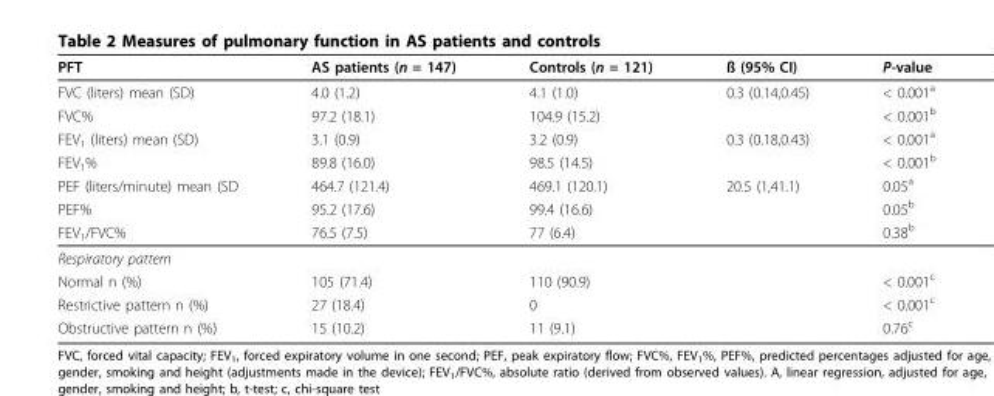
<table><thead><tr><td>PFT</td><td>AS patients (n = 147)</td><td>Controls (n = 121)</td><td>ß (95% CI)</td><td>P-value</td></tr></thead><tbody><tr><td>FVC (liters) mean (SD)</td><td>4.0 (1.2)</td><td>4.1 (1.0)</td><td>0.3 (0.14,0.45)</td><td>&lt; 0.001<sup>a</sup></td></tr><tr><td>FVC%</td><td>97.2 (18.1)</td><td>104.9 (15.2)</td><td></td><td>&lt; 0.001<sup>b</sup></td></tr><tr><td>FEV<sub>1</sub> (liters) mean (SD)</td><td>3.1 (0.9)</td><td>3.2 (0.9)</td><td>0.3 (0.18,0.43)</td><td>&lt; 0.001<sup>a</sup></td></tr><tr><td>FEV<sub>1</sub>%</td><td>89.8 (16.0)</td><td>98.5 (14.5)</td><td></td><td>&lt; 0.001<sup>b</sup></td></tr><tr><td>PEF (liters/minute) mean (SD</td><td>464.7 (121.4)</td><td>469.1 (120.1)</td><td>20.5 (1,41.1)</td><td>0.05<sup>a</sup></td></tr><tr><td>PEF%</td><td>95.2 (17.6)</td><td>99.4 (16.6)</td><td></td><td>0.05<sup>b</sup></td></tr><tr><td>FEV<sub>1</sub>/FVC%</td><td>76.5 (7.5)</td><td>77 (6.4)</td><td></td><td>0.38<sup>b</sup></td></tr><tr><td colspan="5">Respiratory pattern</td></tr><tr><td>Normal n (%)</td><td>105 (71.4)</td><td>110 (90.9)</td><td></td><td>&lt; 0.001<sup>c</sup></td></tr><tr><td>Restrictive pattern n (%)</td><td>27 (18.4)</td><td>0</td><td></td><td>&lt; 0.001<sup>c</sup></td></tr><tr><td>Obstructive pattern n (%)</td><td>15 (10.2)</td><td>11 (9.1)</td><td></td><td>0.76<sup>c</sup></td></tr></tbody></table>